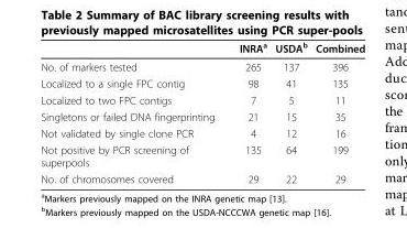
<table><thead><tr><td></td><td>INRA<sup>a</sup></td><td>USDA<sup>b</sup></td><td>Combined</td></tr></thead><tbody><tr><td>No. of markers tested</td><td>265</td><td>137</td><td>396</td></tr><tr><td>Localized to a single FPC contig</td><td>98</td><td>41</td><td>135</td></tr><tr><td>Localized to two FPC contigs</td><td>7</td><td>5</td><td>11</td></tr><tr><td>Singletons or failed DNA fingerprinting</td><td>21</td><td>15</td><td>35</td></tr><tr><td>Not validated by single clone PCR</td><td>4</td><td>12</td><td>16</td></tr><tr><td>Not positive by PCR screening of superpools</td><td>135</td><td>64</td><td>199</td></tr><tr><td>No. of chromosomes covered</td><td>29</td><td>22</td><td>29</td></tr></tbody></table>